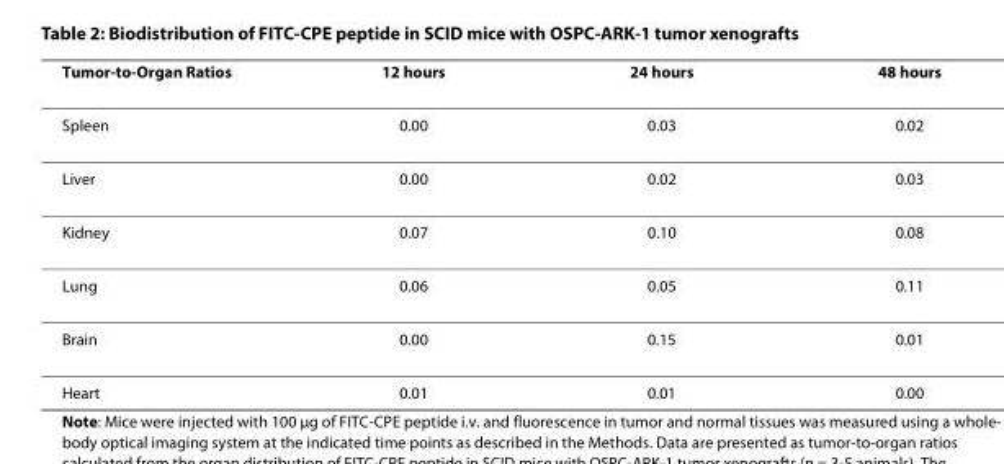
<table><thead><tr><td>Tumor-to-Organ Ratios</td><td>12 hours</td><td>24 hours</td><td>48 hours</td></tr></thead><tbody><tr><td>Spleen</td><td>0.00</td><td>0.03</td><td>0.02</td></tr><tr><td>Liver</td><td>0.00</td><td>0.02</td><td>0.03</td></tr><tr><td>Kidney</td><td>0.07</td><td>0.10</td><td>0.08</td></tr><tr><td>Lung</td><td>0.06</td><td>0.05</td><td>0.11</td></tr><tr><td>Brain</td><td>0.00</td><td>0.15</td><td>0.01</td></tr><tr><td>Heart</td><td>0.01</td><td>0.01</td><td>0.00</td></tr></tbody></table>